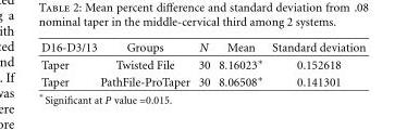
<table><thead><tr><td>D16-D3/13</td><td>Groups</td><td>N</td><td>Mean</td><td>Standard deviation</td></tr></thead><tbody><tr><td>Taper</td><td>Twisted File</td><td>30</td><td>8.16023∗</td><td>0.152618</td></tr><tr><td>Taper</td><td>PathFile-ProTaper</td><td>30</td><td>8.06508∗</td><td>0.141301</td></tr></tbody></table>